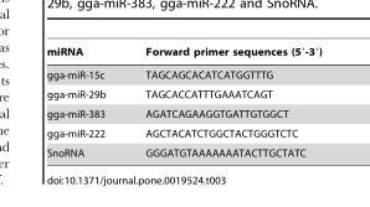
<table><thead><tr><td>miRNA</td><td>Forward primer sequences (5′-3′)</td></tr></thead><tbody><tr><td>gga-miR-15c</td><td>TAGCAGCACATCATGGTTTG</td></tr><tr><td>gga-miR-29b</td><td>TAGCACCATTTGAAATCAGT</td></tr><tr><td>gga-miR-383</td><td>AGATCAGAAGGTGATTGTGGCT</td></tr><tr><td>gga-miR-222</td><td>AGCTACATCTGGCTACTGGGTCTC</td></tr><tr><td>SnoRNA</td><td>GGGATGTAAAAAAATACTTGCTATC</td></tr></tbody></table>